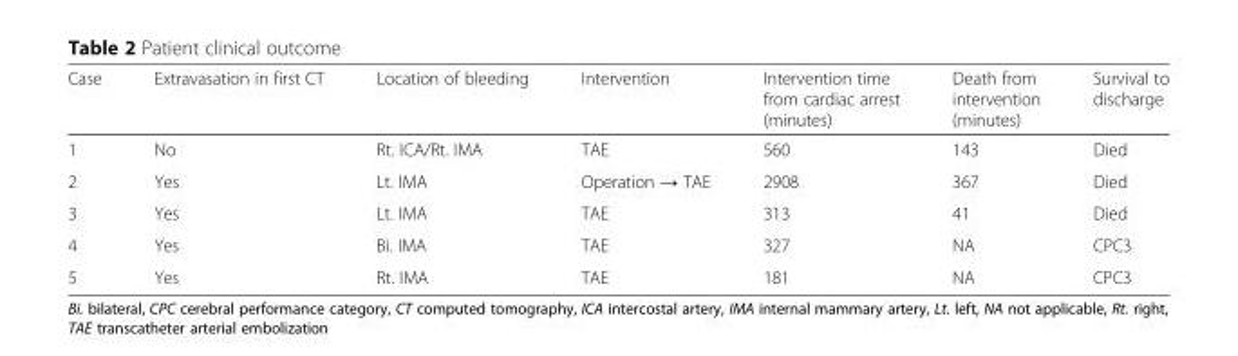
<table><thead><tr><td>Case</td><td>Extravasation in first CT</td><td>Location of bleeding</td><td>Intervention</td><td>Intervention time from cardiac arrest (minutes)</td><td>Death from intervention (minutes)</td><td>Survival to discharge</td></tr></thead><tbody><tr><td>1</td><td>No</td><td>Rt. ICA/Rt. IMA</td><td>TAE</td><td>560</td><td>143</td><td>Died</td></tr><tr><td>2</td><td>Yes</td><td>Lt. IMA</td><td>Operation → TAE</td><td>2908</td><td>367</td><td>Died</td></tr><tr><td>3</td><td>Yes</td><td>Lt. IMA</td><td>TAE</td><td>313</td><td>41</td><td>Died</td></tr><tr><td>4</td><td>Yes</td><td>Bi. IMA</td><td>TAE</td><td>327</td><td>NA</td><td>CPC3</td></tr><tr><td>5</td><td>Yes</td><td>Rt. IMA</td><td>TAE</td><td>181</td><td>NA</td><td>CPC3</td></tr></tbody></table>